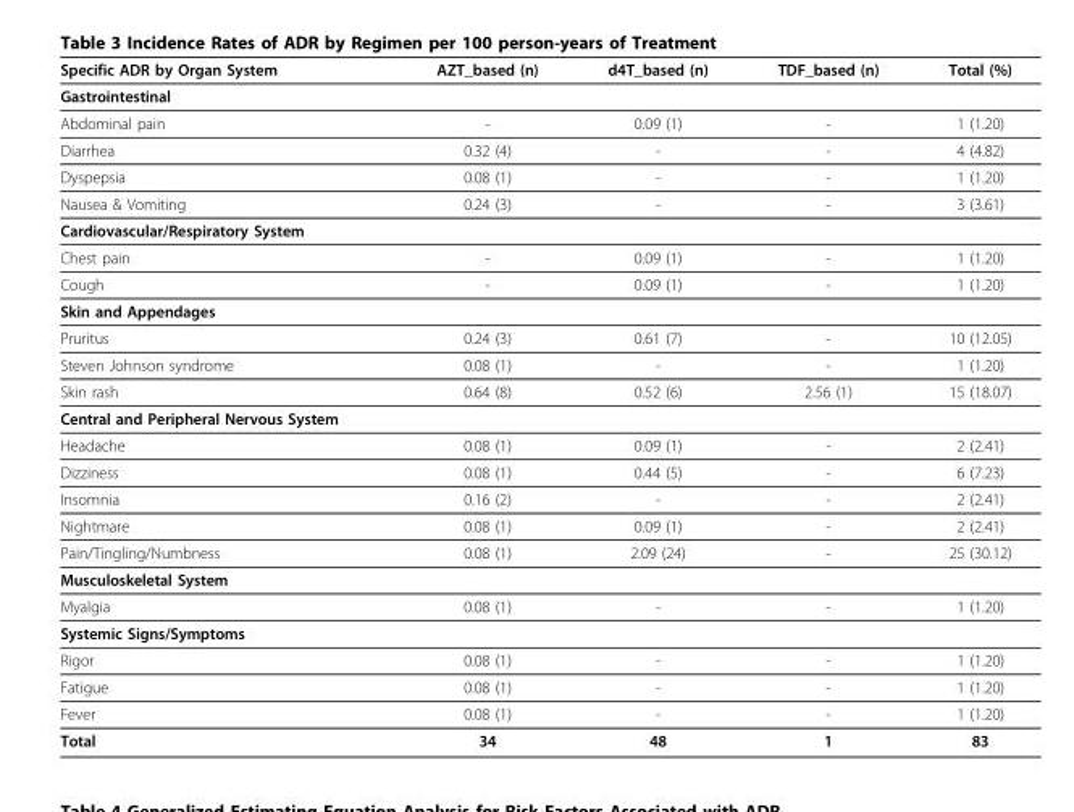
<table><thead><tr><td>Specific ADR by Organ System</td><td>AZT_based (n)</td><td>d4T_based (n)</td><td>TDF_based (n)</td><td>Total (%)</td></tr></thead><tbody><tr><td colspan="5">Gastrointestinal</td></tr><tr><td>Abdominal pain</td><td>-</td><td>0.09 (1)</td><td>-</td><td>1 (1.20)</td></tr><tr><td>Diarrhea</td><td>0.32 (4)</td><td>-</td><td>-</td><td>4 (4.82)</td></tr><tr><td>Dyspepsia</td><td>0.08 (1)</td><td>-</td><td>-</td><td>1 (1.20)</td></tr><tr><td>Nausea &amp; Vomiting</td><td>0.24 (3)</td><td>-</td><td>-</td><td>3 (3.61)</td></tr><tr><td colspan="5">Cardiovascular/Respiratory System</td></tr><tr><td>Chest pain</td><td>-</td><td>0.09 (1)</td><td>-</td><td>1 (1.20)</td></tr><tr><td>Cough</td><td>-</td><td>0.09 (1)</td><td>-</td><td>1 (1.20)</td></tr><tr><td colspan="5">Skin and Appendages</td></tr><tr><td>Pruritus</td><td>0.24 (3)</td><td>0.61 (7)</td><td>-</td><td>10 (12.05)</td></tr><tr><td>Steven Johnson syndrome</td><td>0.08 (1)</td><td>-</td><td>-</td><td>1 (1.20)</td></tr><tr><td>Skin rash</td><td>0.64 (8)</td><td>0.52 (6)</td><td>2.56 (1)</td><td>15 (18.07)</td></tr><tr><td colspan="5">Central and Peripheral Nervous System</td></tr><tr><td>Headache</td><td>0.08 (1)</td><td>0.09 (1)</td><td>-</td><td>2 (2.41)</td></tr><tr><td>Dizziness</td><td>0.08 (1)</td><td>0.44 (5)</td><td>-</td><td>6 (7.23)</td></tr><tr><td>Insomnia</td><td>0.16 (2)</td><td>-</td><td>-</td><td>2 (2.41)</td></tr><tr><td>Nightmare</td><td>0.08 (1)</td><td>0.09 (1)</td><td>-</td><td>2 (2.41)</td></tr><tr><td>Pain/Tingling/Numbness</td><td>0.08 (1)</td><td>2.09 (24)</td><td>-</td><td>25 (30.12)</td></tr><tr><td colspan="5">Musculoskeletal System</td></tr><tr><td>Myalgia</td><td>0.08 (1)</td><td>-</td><td>-</td><td>1 (1.20)</td></tr><tr><td colspan="5">Systemic Signs/Symptoms</td></tr><tr><td>Rigor</td><td>0.08 (1)</td><td>-</td><td>-</td><td>1 (1.20)</td></tr><tr><td>Fatigue</td><td>0.08 (1)</td><td>-</td><td>-</td><td>1 (1.20)</td></tr><tr><td>Fever</td><td>0.08 (1)</td><td>-</td><td>-</td><td>1 (1.20)</td></tr><tr><td>Total</td><td>34</td><td>48</td><td>1</td><td>83</td></tr></tbody></table>